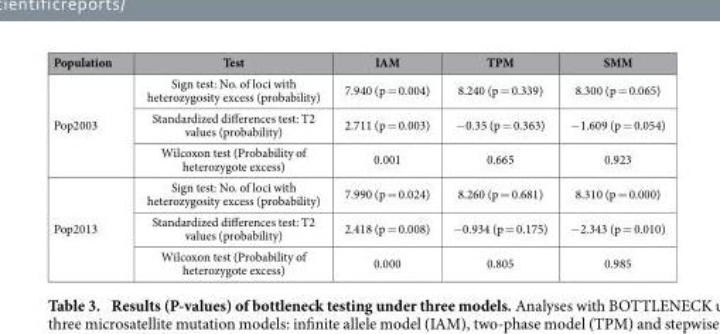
<table><thead><tr><td>Population</td><td>Test</td><td>IAM</td><td>TPM</td><td>SMM</td></tr></thead><tbody><tr><td rowspan="3">Pop2003</td><td>Sign test: No. of loci with heterozygosity excess (probability)</td><td>7.940 (p = 0.004)</td><td>8.240 (p = 0.339)</td><td>8.300 (p = 0.065)</td></tr><tr><td>Standardized differences test: T2 values (probability)</td><td>2.711 (p = 0.003)</td><td>− 0.35 (p = 0.363)</td><td>− 1.609 (p = 0.054)</td></tr><tr><td>Wilcoxon test (Probability of heterozygote excess)</td><td>0.001</td><td>0.665</td><td>0.923</td></tr><tr><td rowspan="3">Pop2013</td><td>Sign test: No. of loci with heterozygosity excess (probability)</td><td>7.990 (p = 0.024)</td><td>8.260 (p = 0.681)</td><td>8.310 (p = 0.000)</td></tr><tr><td>Standardized differences test: T2 values (probability)</td><td>2.418 (p = 0.008)</td><td>− 0.934 (p = 0.175)</td><td>− 2.343 (p = 0.010)</td></tr><tr><td>Wilcoxon test (Probability of heterozygote excess)</td><td>0.000</td><td>0.805</td><td>0.985</td></tr></tbody></table>